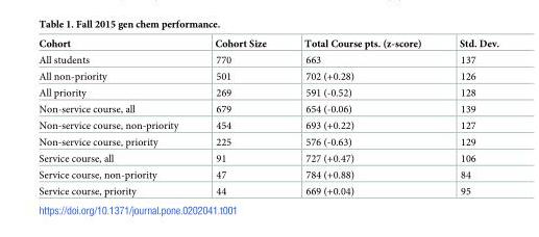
<table><thead><tr><td>Cohort</td><td>Cohort Size</td><td>Total Course pts. (z-score)</td><td>Std. Dev.</td></tr></thead><tbody><tr><td>All students</td><td>770</td><td>663</td><td>137</td></tr><tr><td>All non-priority</td><td>501</td><td>702 (+0.28)</td><td>126</td></tr><tr><td>All priority</td><td>269</td><td>591 (-0.52)</td><td>128</td></tr><tr><td>Non-service course, all</td><td>679</td><td>654 (-0.06)</td><td>139</td></tr><tr><td>Non-service course, non-priority</td><td>454</td><td>693 (+0.22)</td><td>127</td></tr><tr><td>Non-service course, priority</td><td>225</td><td>576 (-0.63)</td><td>129</td></tr><tr><td>Service course, all</td><td>91</td><td>727 (+0.47)</td><td>106</td></tr><tr><td>Service course, non-priority</td><td>47</td><td>784 (+0.88)</td><td>84</td></tr><tr><td>Service course, priority</td><td>44</td><td>669 (+0.04)</td><td>95</td></tr></tbody></table>